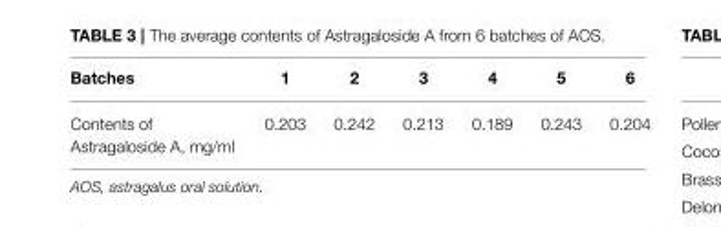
<table><thead><tr><td>Batches</td><td>1</td><td>2</td><td>3</td><td>4</td><td>5</td><td>6</td></tr></thead><tbody><tr><td>Contents of Astragaloside A, mg/ml</td><td>0.203</td><td>0.242</td><td>0.213</td><td>0.189</td><td>0.243</td><td>0.204</td></tr></tbody></table>